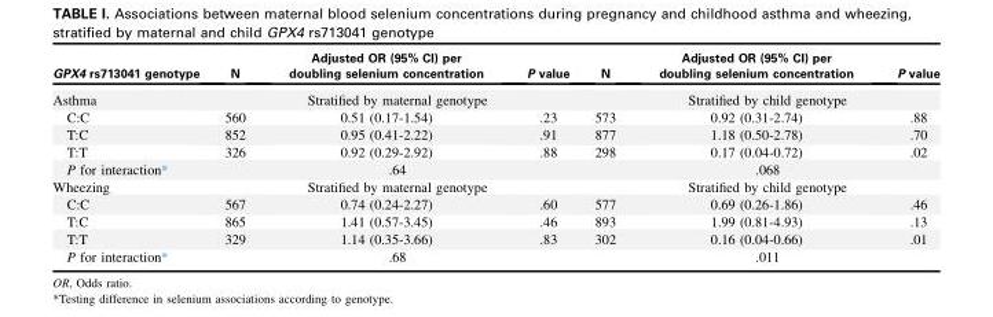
<table><thead><tr><td>GPX4 rs713041 genotype</td><td>N</td><td>Adjusted OR (95% CI) per doubling selenium concentration</td><td>P value</td><td>N</td><td>Adjusted OR (95% CI) per doubling selenium concentration</td><td>P value</td></tr></thead><tbody><tr><td>Asthma</td><td colspan="3">Stratified by maternal genotype</td><td colspan="3">Stratified by child genotype</td></tr><tr><td>C:C</td><td>560</td><td>0.51 (0.17-1.54)</td><td>.23</td><td>573</td><td>0.92 (0.31-2.74)</td><td>.88</td></tr><tr><td>T:C</td><td>852</td><td>0.95 (0.41-2.22)</td><td>.91</td><td>877</td><td>1.18 (0.50-2.78)</td><td>.70</td></tr><tr><td>T:T</td><td>326</td><td>0.92 (0.29-2.92)</td><td>.88</td><td>298</td><td>0.17 (0.04-0.72)</td><td>.02</td></tr><tr><td>P for interaction*</td><td colspan="3">.64</td><td colspan="3">.068</td></tr><tr><td>Wheezing</td><td colspan="3">Stratified by maternal genotype</td><td colspan="3">Stratified by child genotype</td></tr><tr><td>C:C</td><td>567</td><td>0.74 (0.24-2.27)</td><td>.60</td><td>577</td><td>0.69 (0.26-1.86)</td><td>.46</td></tr><tr><td>T:C</td><td>865</td><td>1.41 (0.57-3.45)</td><td>.46</td><td>893</td><td>1.99 (0.81-4.93)</td><td>.13</td></tr><tr><td>T:T</td><td>329</td><td>1.14 (0.35-3.66)</td><td>.83</td><td>302</td><td>0.16 (0.04-0.66)</td><td>.01</td></tr><tr><td>P for interaction*</td><td colspan="3">.68</td><td colspan="3">.011</td></tr></tbody></table>